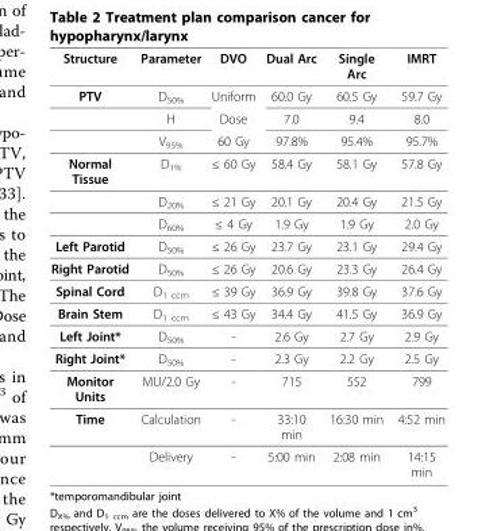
<table><thead><tr><td>Structure</td><td>Parameter</td><td>DVO</td><td>Dual Arc</td><td>Single Arc</td><td>IMRT</td></tr></thead><tbody><tr><td rowspan="3">PTV</td><td>D<sub>50%</sub></td><td>Uniform</td><td>60.0 Gy</td><td>60.5 Gy</td><td>59.7 Gy</td></tr><tr><td>H</td><td>Dose</td><td>7.0</td><td>9.4</td><td>8.0</td></tr><tr><td>V<sub>95%</sub></td><td>60 Gy</td><td>97.8%</td><td>95.4%</td><td>95.7%</td></tr><tr><td rowspan="3">Normal Tissue</td><td>D<sub>1%</sub></td><td>≤ 60 Gy</td><td>58.4 Gy</td><td>58.1 Gy</td><td>57.8 Gy</td></tr><tr><td>D<sub>20%</sub></td><td>≤ 21 Gy</td><td>20.1 Gy</td><td>20.4 Gy</td><td>21.5 Gy</td></tr><tr><td>D<sub>60%</sub></td><td>≤ 4 Gy</td><td>1.9 Gy</td><td>1.9 Gy</td><td>2.0 Gy</td></tr><tr><td>Left Parotid</td><td>D<sub>50%</sub></td><td>≤ 26 Gy</td><td>23.7 Gy</td><td>23.1 Gy</td><td>29.4 Gy</td></tr><tr><td>Right Parotid</td><td>D<sub>50%</sub></td><td>≤ 26 Gy</td><td>20.6 Gy</td><td>23.3 Gy</td><td>26.4 Gy</td></tr><tr><td>Spinal Cord</td><td>D<sub>1 ccm</sub></td><td>≤ 39 Gy</td><td>36.9 Gy</td><td>39.8 Gy</td><td>37.6 Gy</td></tr><tr><td>Brain Stem</td><td>D<sub>1 ccm</sub></td><td>≤ 43 Gy</td><td>34.4 Gy</td><td>41.5 Gy</td><td>36.9 Gy</td></tr><tr><td>Left Joint*</td><td>D<sub>50%</sub></td><td>-</td><td>2.6 Gy</td><td>2.7 Gy</td><td>2.9 Gy</td></tr><tr><td>Right Joint*</td><td>D<sub>50%</sub></td><td>-</td><td>2.3 Gy</td><td>2.2 Gy</td><td>2.5 Gy</td></tr><tr><td>Monitor Units</td><td>MU/2.0 Gy</td><td>-</td><td>715</td><td>552</td><td>799</td></tr><tr><td rowspan="2">Time</td><td>Calculation</td><td>-</td><td>33:10 min</td><td>16:30 min</td><td>4:52 min</td></tr><tr><td>Delivery</td><td>-</td><td>5:00 min</td><td>2:08 min</td><td>14:15 min</td></tr></tbody></table>